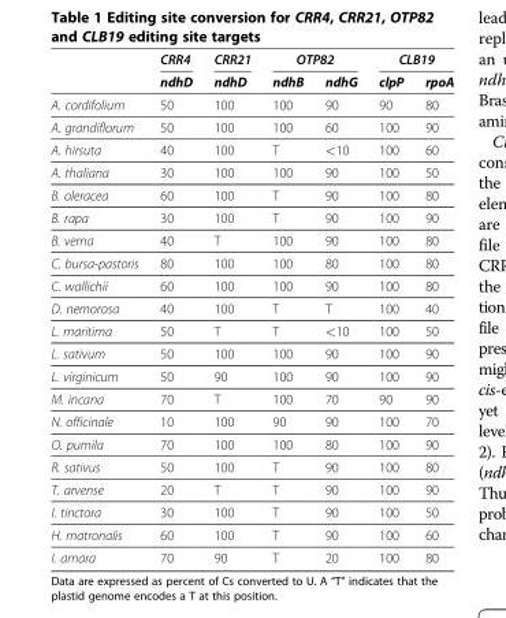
<table><thead><tr><td rowspan="2"></td><td rowspan="2">CRR4 ndhD</td><td rowspan="2">CRR21 ndhD</td><td colspan="2">OTP82</td><td colspan="2">CLB19</td></tr><tr><td>ndhB</td><td>ndhG</td><td>clpP</td><td>rpoA</td></tr></thead><tbody><tr><td>A. cordifolium</td><td>50</td><td>100</td><td>100</td><td>90</td><td>90</td><td>80</td></tr><tr><td>A. grandiflorum</td><td>50</td><td>100</td><td>100</td><td>60</td><td>100</td><td>90</td></tr><tr><td>A. hirsuta</td><td>40</td><td>100</td><td>T</td><td>&lt;10</td><td>100</td><td>60</td></tr><tr><td>A. thaliana</td><td>30</td><td>100</td><td>100</td><td>90</td><td>100</td><td>50</td></tr><tr><td>B. oleracea</td><td>60</td><td>100</td><td>T</td><td>90</td><td>100</td><td>80</td></tr><tr><td>B. rapa</td><td>30</td><td>100</td><td>T</td><td>90</td><td>100</td><td>90</td></tr><tr><td>B. verna</td><td>40</td><td>T</td><td>100</td><td>90</td><td>100</td><td>80</td></tr><tr><td>C. bursa-pastoris</td><td>80</td><td>100</td><td>100</td><td>80</td><td>100</td><td>80</td></tr><tr><td>C. wallichii</td><td>60</td><td>100</td><td>100</td><td>90</td><td>100</td><td>80</td></tr><tr><td>D. nemorosa</td><td>40</td><td>100</td><td>T</td><td>T</td><td>100</td><td>40</td></tr><tr><td>L. maritima</td><td>50</td><td>T</td><td>T</td><td>&lt;10</td><td>100</td><td>50</td></tr><tr><td>L. sativum</td><td>50</td><td>100</td><td>100</td><td>90</td><td>100</td><td>90</td></tr><tr><td>L. virginicum</td><td>50</td><td>90</td><td>100</td><td>90</td><td>100</td><td>90</td></tr><tr><td>M. incana</td><td>70</td><td>T</td><td>100</td><td>70</td><td>90</td><td>90</td></tr><tr><td>N. officinale</td><td>10</td><td>100</td><td>90</td><td>90</td><td>100</td><td>70</td></tr><tr><td>O. pumila</td><td>70</td><td>100</td><td>100</td><td>80</td><td>100</td><td>90</td></tr><tr><td>R. sativus</td><td>50</td><td>100</td><td>T</td><td>90</td><td>100</td><td>80</td></tr><tr><td>T. arvense</td><td>20</td><td>T</td><td>T</td><td>90</td><td>100</td><td>90</td></tr><tr><td>I. tinctora</td><td>30</td><td>100</td><td>T</td><td>90</td><td>100</td><td>50</td></tr><tr><td>H. matronalis</td><td>60</td><td>100</td><td>T</td><td>90</td><td>100</td><td>60</td></tr><tr><td>I. amara</td><td>70</td><td>90</td><td>T</td><td>20</td><td>100</td><td>80</td></tr></tbody></table>